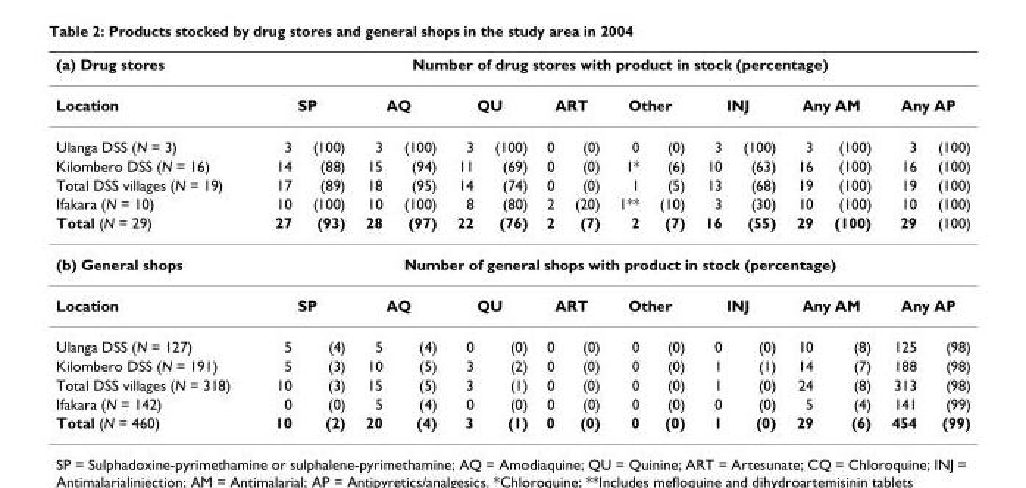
<table><thead><tr><td rowspan="3">(a) Drug stores Location Ulanga DSS (N = 3)</td><td colspan="16">Number of drug stores with product in stock (percentage)</td></tr><tr><td colspan="2">SP</td><td colspan="2">AQ</td><td colspan="2">QU</td><td colspan="2">ART</td><td colspan="2">Other</td><td colspan="2">INJ</td><td colspan="2">Any AM</td><td colspan="2">Any AP</td></tr><tr><td>3</td><td>(100)</td><td>3</td><td>(100)</td><td>3</td><td>(100)</td><td>0</td><td>(0)</td><td>0</td><td>(0)</td><td>3</td><td>(100)</td><td>3</td><td>(100)</td><td>3</td><td>(100)</td></tr></thead><tbody><tr><td>Kilombero DSS (N = 16)</td><td>14</td><td>(88)</td><td>15</td><td>(94)</td><td>11</td><td>(69)</td><td>0</td><td>(0)</td><td>1*</td><td>(6)</td><td>10</td><td>(63)</td><td>16</td><td>(100)</td><td>16</td><td>(100)</td></tr><tr><td>Total DSS villages (N = 19)</td><td>17</td><td>(89)</td><td>18</td><td>(95)</td><td>14</td><td>(74)</td><td>0</td><td>(0)</td><td>1</td><td>(5)</td><td>13</td><td>(68)</td><td>19</td><td>(100)</td><td>19</td><td>(100)</td></tr><tr><td>Ifakara (N = 10)</td><td>10</td><td>(100)</td><td>10</td><td>(100)</td><td>8</td><td>(80)</td><td>2</td><td>(20)</td><td>1**</td><td>(10)</td><td>3</td><td>(30)</td><td>10</td><td>(100)</td><td>10</td><td>(100)</td></tr><tr><td>Total (N = 29)</td><td>27</td><td>(93)</td><td>28</td><td>(97)</td><td>22</td><td>(76)</td><td>2</td><td>(7)</td><td>2</td><td>(7)</td><td>16</td><td>(55)</td><td>29</td><td>(100)</td><td>29</td><td>(100)</td></tr><tr><td>(b) General shops</td><td colspan="16">Number of general shops with product in stock (percentage)</td></tr><tr><td>Location</td><td colspan="2">SP</td><td colspan="2">AQ</td><td colspan="2">QU</td><td colspan="2">ART</td><td colspan="2">Other</td><td colspan="2">INJ</td><td colspan="2">Any AM</td><td colspan="2">Any AP</td></tr><tr><td>Ulanga DSS (N = 127)</td><td>5</td><td>(4)</td><td>5</td><td>(4)</td><td>0</td><td>(0)</td><td>0</td><td>(0)</td><td>0</td><td>(0)</td><td>0</td><td>(0)</td><td>10</td><td>(8)</td><td>125</td><td>(98)</td></tr><tr><td>Kilombero DSS (N = 191)</td><td>5</td><td>(3)</td><td>10</td><td>(5)</td><td>3</td><td>(2)</td><td>0</td><td>(0)</td><td>0</td><td>(0)</td><td>1</td><td>(1)</td><td>14</td><td>(7)</td><td>188</td><td>(98)</td></tr><tr><td>Total DSS villages (N = 318)</td><td>10</td><td>(3)</td><td>15</td><td>(5)</td><td>3</td><td>(1)</td><td>0</td><td>(0)</td><td>0</td><td>(0)</td><td>1</td><td>(0)</td><td>24</td><td>(8)</td><td>313</td><td>(98)</td></tr><tr><td>Ifakara (N = 142)</td><td>0</td><td>(0)</td><td>5</td><td>(4)</td><td>0</td><td>(0)</td><td>0</td><td>(0)</td><td>0</td><td>(0)</td><td>0</td><td>(0)</td><td>5</td><td>(4)</td><td>141</td><td>(99)</td></tr><tr><td>Total (N = 460)</td><td>10</td><td>(2)</td><td>20</td><td>(4)</td><td>3</td><td>(1)</td><td>0</td><td>(0)</td><td>0</td><td>(0)</td><td>1</td><td>(0)</td><td>29</td><td>(6)</td><td>454</td><td>(99)</td></tr></tbody></table>